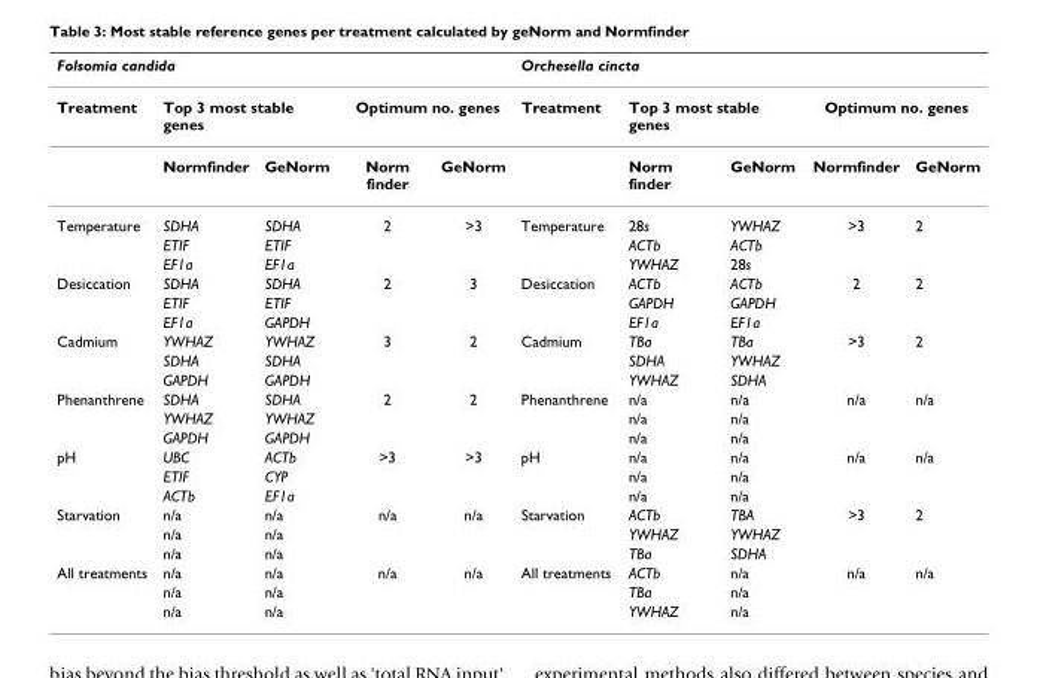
<table><thead><tr><td colspan="5">Folsomia candida</td><td colspan="5">Orchesella cincta</td></tr><tr><td rowspan="2">Treatment</td><td colspan="2">Top 3 most stable genes</td><td colspan="2">Optimum no. genes</td><td rowspan="2">Treatment</td><td colspan="2">Top 3 most stable genes</td><td colspan="2">Optimum no. genes</td></tr><tr><td>Normfinder</td><td>GeNorm</td><td>Norm finder</td><td>GeNorm</td><td>Norm finder</td><td>GeNorm</td><td>Normfinder</td><td>GeNorm</td></tr></thead><tbody><tr><td rowspan="3">Temperature</td><td>SDHA</td><td>SDHA</td><td>2</td><td>&gt;3</td><td>Temperature</td><td>28s</td><td>YWHAZ</td><td>&gt;3</td><td>2</td></tr><tr><td>ETIF</td><td>ETIF</td><td></td><td></td><td></td><td>ACTb</td><td>ACTb</td><td></td><td></td></tr><tr><td>EF1a</td><td>EF1a</td><td></td><td></td><td></td><td>YWHAZ</td><td>28s</td><td></td><td></td></tr><tr><td rowspan="3">Desiccation</td><td>SDHA</td><td>SDHA</td><td>2</td><td>3</td><td>Desiccation</td><td>ACTb</td><td>ACTb</td><td>2</td><td>2</td></tr><tr><td>ETIF</td><td>ETIF</td><td></td><td></td><td></td><td>GAPDH</td><td>GAPDH</td><td></td><td></td></tr><tr><td>EF1a</td><td>GAPDH</td><td></td><td></td><td></td><td>EF1a</td><td>EF1a</td><td></td><td></td></tr><tr><td rowspan="3">Cadmium</td><td>YWHAZ</td><td>YWHAZ</td><td>3</td><td>2</td><td>Cadmium</td><td>TBa</td><td>TBa</td><td>&gt;3</td><td>2</td></tr><tr><td>SDHA</td><td>SDHA</td><td></td><td></td><td></td><td>SDHA</td><td>YWHAZ</td><td></td><td></td></tr><tr><td>GAPDH</td><td>GAPDH</td><td></td><td></td><td></td><td>YWHAZ</td><td>SDHA</td><td></td><td></td></tr><tr><td rowspan="3">Phenanthrene</td><td>SDHA</td><td>SDHA</td><td>2</td><td>2</td><td>Phenanthrene</td><td>n/a</td><td>n/a</td><td>n/a</td><td>n/a</td></tr><tr><td>YWHAZ</td><td>YWHAZ</td><td></td><td></td><td></td><td>n/a</td><td>n/a</td><td></td><td></td></tr><tr><td>GAPDH</td><td>GAPDH</td><td></td><td></td><td></td><td>n/a</td><td>n/a</td><td></td><td></td></tr><tr><td rowspan="3">pH</td><td>UBC</td><td>ACTb</td><td>&gt;3</td><td>&gt;3</td><td>pH</td><td>n/a</td><td>n/a</td><td>n/a</td><td>n/a</td></tr><tr><td>ETIF</td><td>CYP</td><td></td><td></td><td></td><td>n/a</td><td>n/a</td><td></td><td></td></tr><tr><td>ACTb</td><td>EF1a</td><td></td><td></td><td></td><td>n/a</td><td>n/a</td><td></td><td></td></tr><tr><td rowspan="3">Starvation</td><td>n/a</td><td>n/a</td><td>n/a</td><td>n/a</td><td>Starvation</td><td>ACTb</td><td>TBA</td><td>&gt;3</td><td>2</td></tr><tr><td>n/a</td><td>n/a</td><td></td><td></td><td></td><td>YWHAZ</td><td>YWHAZ</td><td></td><td></td></tr><tr><td>n/a</td><td>n/a</td><td></td><td></td><td></td><td>TBa</td><td>SDHA</td><td></td><td></td></tr><tr><td rowspan="3">All treatments</td><td>n/a</td><td>n/a</td><td>n/a</td><td>n/a</td><td>All treatments</td><td>ACTb</td><td>n/a</td><td>n/a</td><td>n/a</td></tr><tr><td>n/a</td><td>n/a</td><td></td><td></td><td></td><td>TBa</td><td>n/a</td><td></td><td></td></tr><tr><td>n/a</td><td>n/a</td><td></td><td></td><td></td><td>YWHAZ</td><td>n/a</td><td></td><td></td></tr></tbody></table>